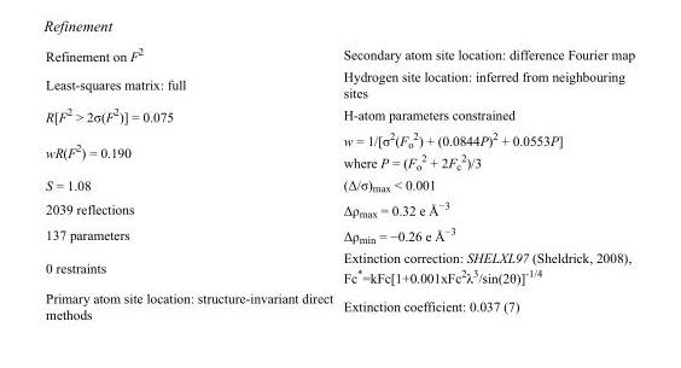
<table><tbody><tr><td>Refinement on F<sup>2</sup></td><td>Secondary atom site location: difference Fourier map</td></tr><tr><td>Least-squares matrix: full</td><td>Hydrogen site location: inferred from neighbouring sites</td></tr><tr><td>R[F<sup>2</sup> &gt; 2σ(F<sup>2</sup>)] = 0.075</td><td>H-atom parameters constrained</td></tr><tr><td>wR(F<sup>2</sup>) = 0.190</td><td>w = 1/[σ<sup>2</sup>(F<sub>o</sub> <sup>2</sup>) + (0.0844P)<sup>2</sup> + 0.0553P] where P = (F<sub>o</sub> <sup>2</sup> + 2F<sub>c</sub> <sup>2</sup>)/3</td></tr><tr><td>S = 1.08</td><td>(Δ/σ)<sub>max</sub> &lt; 0.001</td></tr><tr><td>2039 reflections</td><td>Δρ<sub>max</sub> = 0.32 e Å<sup>−3</sup></td></tr><tr><td>137 parameters</td><td>Δρ<sub>min</sub> = −0.26 e Å<sup>−3</sup></td></tr><tr><td>0 restraints</td><td>Extinction correction: SHELXL97 (Sheldrick, 2008), Fc*=kFc[1+0.001xFc<sup>2</sup>λ<sup>3</sup>/sin(2θ)]<sup>-1/4</sup></td></tr><tr><td>Primary atom site location: structure-invariant direct methods</td><td>Extinction coefficient: 0.037 (7)</td></tr></tbody></table>